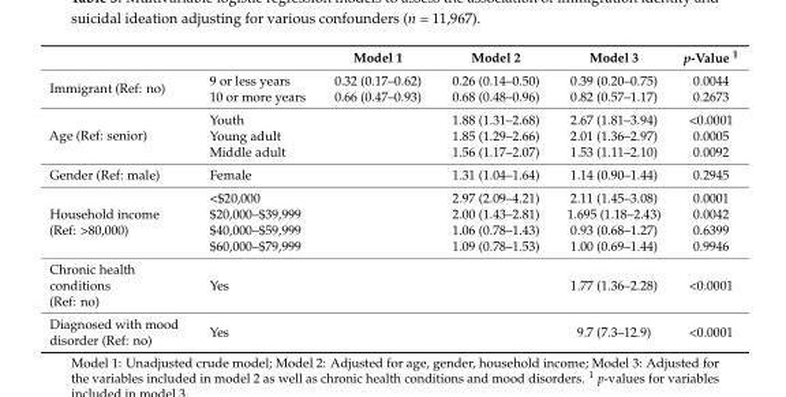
<table><thead><tr><td></td><td></td><td>Model 1</td><td>Model 2</td><td>Model 3</td><td>p-Value <sup>1</sup></td></tr></thead><tbody><tr><td rowspan="2">Immigrant (Ref: no)</td><td>9 or less years</td><td>0.32 (0.17–0.62)</td><td>0.26 (0.14–0.50)</td><td>0.39 (0.20–0.75)</td><td>0.0044</td></tr><tr><td>10 or more years</td><td>0.66 (0.47–0.93)</td><td>0.68 (0.48–0.96)</td><td>0.82 (0.57–1.17)</td><td>0.2673</td></tr><tr><td rowspan="3">Age (Ref: senior)</td><td>Youth</td><td></td><td>1.88 (1.31–2.68)</td><td>2.67 (1.81–3.94)</td><td>&lt;0.0001</td></tr><tr><td>Young adult</td><td></td><td>1.85 (1.29–2.66)</td><td>2.01 (1.36–2.97)</td><td>0.0005</td></tr><tr><td>Middle adult</td><td></td><td>1.56 (1.17–2.07)</td><td>1.53 (1.11–2.10)</td><td>0.0092</td></tr><tr><td>Gender (Ref: male)</td><td>Female</td><td></td><td>1.31 (1.04–1.64)</td><td>1.14 (0.90–1.44)</td><td>0.2945</td></tr><tr><td rowspan="4">Household income (Ref: &gt;80,000)</td><td>&lt;$20,000</td><td></td><td>2.97 (2.09–4.21)</td><td>2.11 (1.45–3.08)</td><td>0.0001</td></tr><tr><td>$20,000–$39,999</td><td></td><td>2.00 (1.43–2.81)</td><td>1.695 (1.18–2.43)</td><td>0.0042</td></tr><tr><td>$40,000–$59,999</td><td></td><td>1.06 (0.78–1.43)</td><td>0.93 (0.68–1.27)</td><td>0.6399</td></tr><tr><td>$60,000–$79,999</td><td></td><td>1.09 (0.78–1.53)</td><td>1.00 (0.69–1.44)</td><td>0.9946</td></tr><tr><td>Chronic health conditions (Ref: no)</td><td>Yes</td><td></td><td></td><td>1.77 (1.36–2.28)</td><td>&lt;0.0001</td></tr><tr><td>Diagnosed with mood disorder (Ref: no)</td><td>Yes</td><td></td><td></td><td>9.7 (7.3–12.9)</td><td>&lt;0.0001</td></tr></tbody></table>